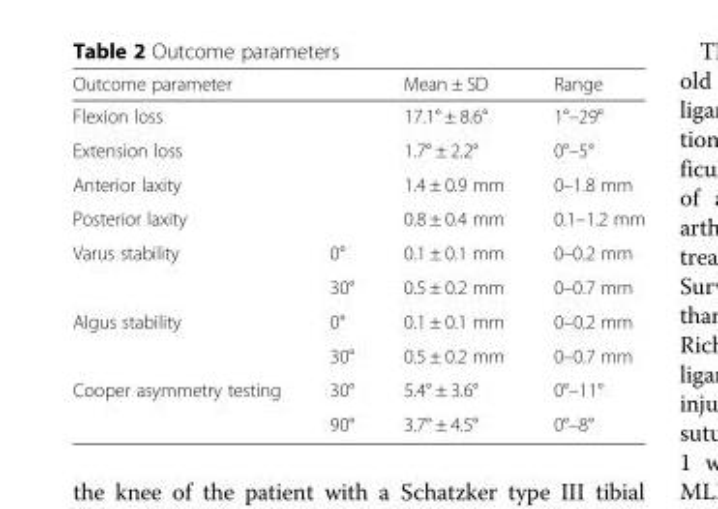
<table><thead><tr><td colspan="2">Outcome parameter</td><td>Mean ± SD</td><td>Range</td></tr></thead><tbody><tr><td colspan="2">Flexion loss</td><td>17.1° ± 8.6°</td><td>1°–29°</td></tr><tr><td colspan="2">Extension loss</td><td>1.7° ± 2.2°</td><td>0°–5°</td></tr><tr><td colspan="2">Anterior laxity</td><td>1.4 ± 0.9 mm</td><td>0–1.8 mm</td></tr><tr><td colspan="2">Posterior laxity</td><td>0.8 ± 0.4 mm</td><td>0.1–1.2 mm</td></tr><tr><td rowspan="2">Varus stability</td><td>0°</td><td>0.1 ± 0.1 mm</td><td>0–0.2 mm</td></tr><tr><td>30°</td><td>0.5 ± 0.2 mm</td><td>0–0.7 mm</td></tr><tr><td rowspan="2">Algus stability</td><td>0°</td><td>0.1 ± 0.1 mm</td><td>0–0.2 mm</td></tr><tr><td>30°</td><td>0.5 ± 0.2 mm</td><td>0–0.7 mm</td></tr><tr><td rowspan="2">Cooper asymmetry testing</td><td>30°</td><td>5.4° ± 3.6°</td><td>0°–11°</td></tr><tr><td>90°</td><td>3.7° ± 4.5°</td><td>0°–8°</td></tr></tbody></table>